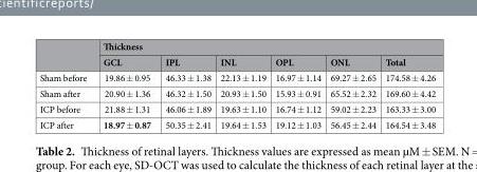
<table><thead><tr><td rowspan="2"></td><td colspan="6">Thickness</td></tr><tr><td>GCL</td><td>IPL</td><td>INL</td><td>OPL</td><td>ONL</td><td>Total</td></tr></thead><tbody><tr><td>Sham before</td><td>19.86 ± 0.95</td><td>46.33 ± 1.38</td><td>22.13 ± 1.19</td><td>16.97 ± 1.14</td><td>69.27 ± 2.65</td><td>174.58 ± 4.26</td></tr><tr><td>Sham after</td><td>20.90 ± 1.36</td><td>46.32 ± 1.50</td><td>20.93 ± 1.50</td><td>15.93 ± 0.91</td><td>65.52 ± 2.32</td><td>169.60 ± 4.42</td></tr><tr><td>ICP before</td><td>21.88 ± 1.31</td><td>46.06 ± 1.89</td><td>19.63 ± 1.10</td><td>16.74 ± 1.12</td><td>59.02 ± 2.23</td><td>163.33 ± 3.00</td></tr><tr><td>ICP after</td><td>18.97 ± 0.87</td><td>50.35 ± 2.41</td><td>19.64 ± 1.53</td><td>19.12 ± 1.03</td><td>56.45 ± 2.44</td><td>164.54 ± 3.48</td></tr></tbody></table>